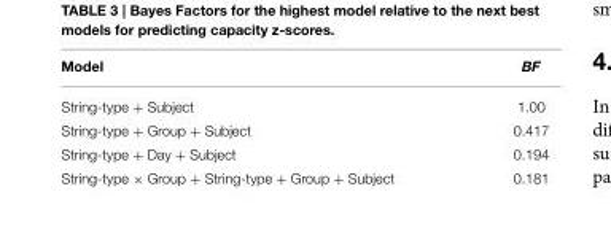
<table><thead><tr><td>Model</td><td>BF</td></tr></thead><tbody><tr><td>String-type + Subject</td><td>1.00</td></tr><tr><td>String-type + Group + Subject</td><td>0.417</td></tr><tr><td>String-type + Day + Subject</td><td>0.194</td></tr><tr><td>String-type × Group + String-type + Group + Subject</td><td>0.181</td></tr></tbody></table>